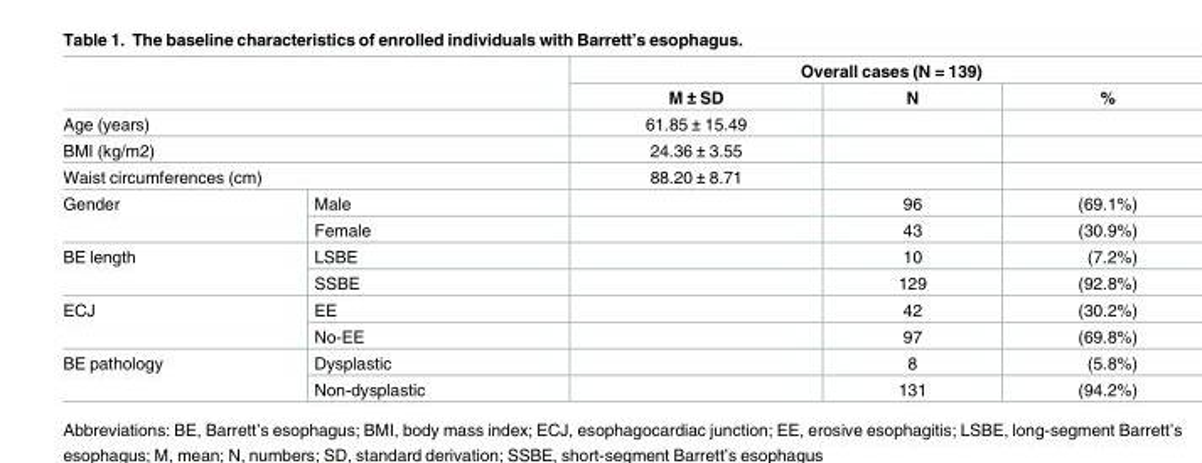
<table><thead><tr><td rowspan="2"></td><td rowspan="2"></td><td colspan="3">Overall cases (N = 139)</td></tr><tr><td>M ± SD</td><td>N</td><td>%</td></tr></thead><tbody><tr><td colspan="2">Age (years)</td><td>61.85 ± 15.49</td><td></td><td></td></tr><tr><td colspan="2">BMI (kg/m2)</td><td>24.36 ± 3.55</td><td></td><td></td></tr><tr><td colspan="2">Waist circumferences (cm)</td><td>88.20 ± 8.71</td><td></td><td></td></tr><tr><td rowspan="2">Gender</td><td>Male</td><td></td><td>96</td><td>(69.1%)</td></tr><tr><td>Female</td><td></td><td>43</td><td>(30.9%)</td></tr><tr><td rowspan="2">BE length</td><td>LSBE</td><td></td><td>10</td><td>(7.2%)</td></tr><tr><td>SSBE</td><td></td><td>129</td><td>(92.8%)</td></tr><tr><td rowspan="2">ECJ</td><td>EE</td><td></td><td>42</td><td>(30.2%)</td></tr><tr><td>No-EE</td><td></td><td>97</td><td>(69.8%)</td></tr><tr><td rowspan="2">BE pathology</td><td>Dysplastic</td><td></td><td>8</td><td>(5.8%)</td></tr><tr><td>Non-dysplastic</td><td></td><td>131</td><td>(94.2%)</td></tr></tbody></table>